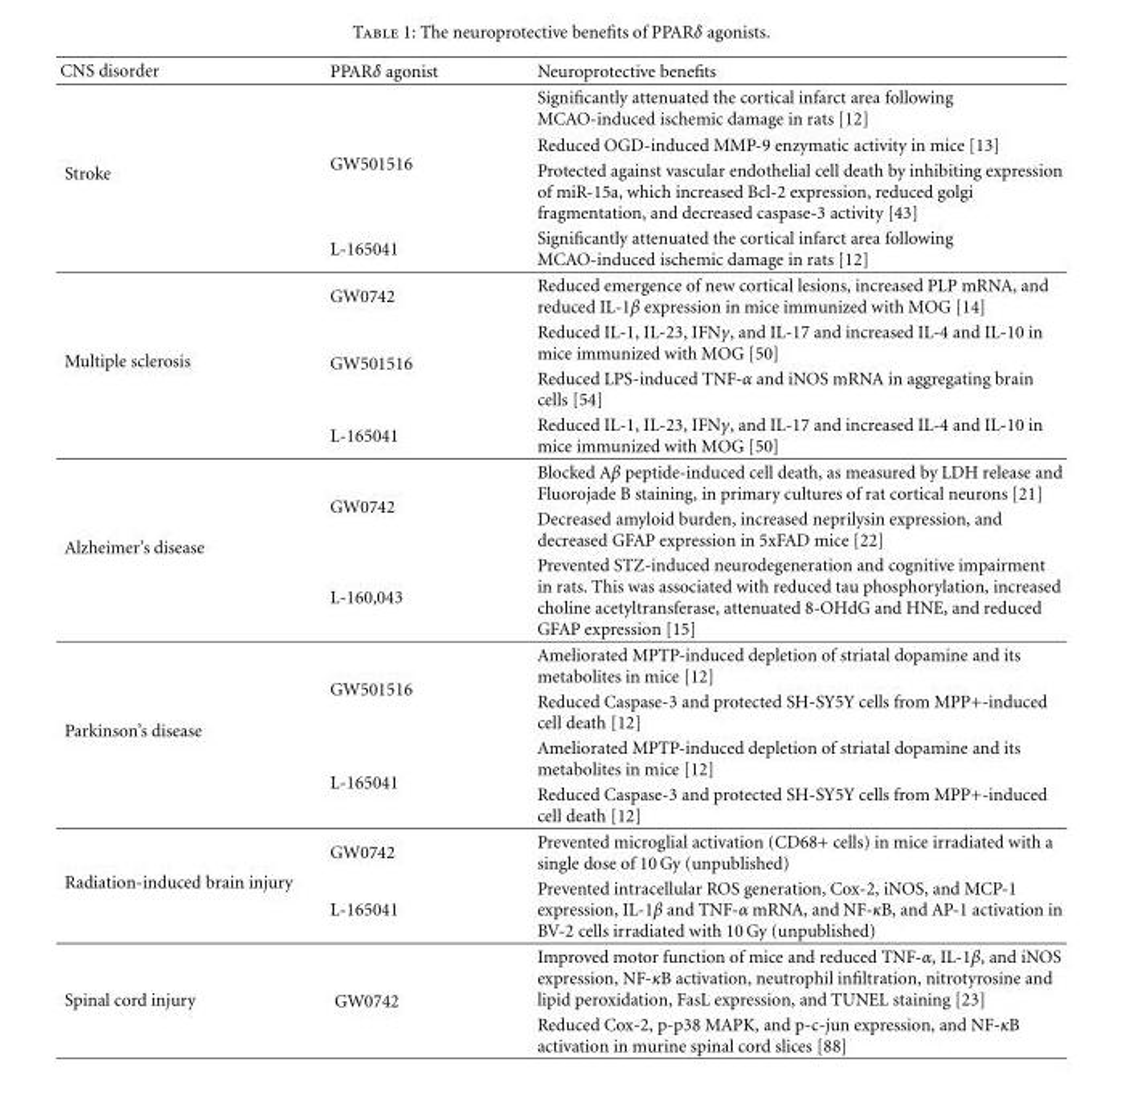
<table><thead><tr><td>CNS disorder</td><td>PPARδ agonist</td><td>Neuroprotective benefits</td></tr></thead><tbody><tr><td rowspan="4">Stroke</td><td rowspan="3">GW501516</td><td>Significantly attenuated the cortical infarct area following MCAO-induced ischemic damage in rats [12]</td></tr><tr><td>Reduced OGD-induced MMP-9 enzymatic activity in mice [13]</td></tr><tr><td>Protected against vascular endothelial cell death by inhibiting expression of miR-15a, which increased Bcl-2 expression, reduced golgi fragmentation, and decreased caspase-3 activity [43]</td></tr><tr><td>L-165041</td><td>Significantly attenuated the cortical infarct area following MCAO-induced ischemic damage in rats [12]</td></tr><tr><td rowspan="4">Multiple sclerosis</td><td>GW0742</td><td>Reduced emergence of new cortical lesions, increased PLP mRNA, and reduced IL-1β expression in mice immunized with MOG [14]</td></tr><tr><td rowspan="2">GW501516</td><td>Reduced IL-1, IL-23, IFNγ, and IL-17 and increased IL-4 and IL-10 in mice immunized with MOG [50]</td></tr><tr><td>Reduced LPS-induced TNF-α and iNOS mRNA in aggregating brain cells [54]</td></tr><tr><td>L-165041</td><td>Reduced IL-1, IL-23, IFNγ, and IL-17 and increased IL-4 and IL-10 in mice immunized with MOG [50]</td></tr><tr><td rowspan="3">Alzheimer’s disease</td><td rowspan="2">GW0742</td><td>Blocked Aβ peptide-induced cell death, as measured by LDH release and Fluorojade B staining, in primary cultures of rat cortical neurons [21]</td></tr><tr><td>Decreased amyloid burden, increased neprilysin expression, and decreased GFAP expression in 5xFAD mice [22]</td></tr><tr><td>L-160,043</td><td>Prevented STZ-induced neurodegeneration and cognitive impairment in rats. This was associated with reduced tau phosphorylation, increased choline acetyltransferase, attenuated 8-OHdG and HNE, and reduced GFAP expression [15]</td></tr><tr><td rowspan="4">Parkinson’s disease</td><td rowspan="2">GW501516</td><td>Ameliorated MPTP-induced depletion of striatal dopamine and its metabolites in mice [12]</td></tr><tr><td>Reduced Caspase-3 and protected SH-SY5Y cells from MPP+-induced cell death [12]</td></tr><tr><td rowspan="2">L-165041</td><td>Ameliorated MPTP-induced depletion of striatal dopamine and its metabolites in mice [12]</td></tr><tr><td>Reduced Caspase-3 and protected SH-SY5Y cells from MPP+-induced cell death [12]</td></tr><tr><td rowspan="2">Radiation-induced brain injury</td><td>GW0742</td><td>Prevented microglial activation (CD68+ cells) in mice irradiated with a single dose of 10 Gy (unpublished)</td></tr><tr><td>L-165041</td><td>Prevented intracellular ROS generation, Cox-2, iNOS, and MCP-1 expression, IL-1β and TNF-α mRNA, and NF-κB, and AP-1 activation in BV-2 cells irradiated with 10 Gy (unpublished)</td></tr><tr><td rowspan="2">Spinal cord injury</td><td rowspan="2">GW0742</td><td>Improved motor function of mice and reduced TNF-α, IL-1β, and iNOS expression, NF-κB activation, neutrophil infiltration, nitrotyrosine and lipid peroxidation, FasL expression, and TUNEL staining [23]</td></tr><tr><td>Reduced Cox-2, p-p38 MAPK, and p-c-jun expression, and NF-κB activation in murine spinal cord slices [88]</td></tr></tbody></table>